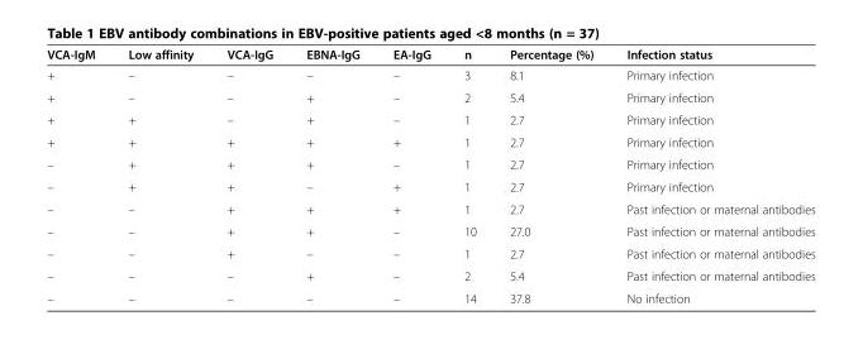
<table><thead><tr><td>VCA-IgM</td><td>Low affinity</td><td>VCA-IgG</td><td>EBNA-IgG</td><td>EA-IgG</td><td>n</td><td>Percentage (%)</td><td>Infection status</td></tr></thead><tbody><tr><td>+</td><td>–</td><td>–</td><td>–</td><td>–</td><td>3</td><td>8.1</td><td>Primary infection</td></tr><tr><td>+</td><td>–</td><td>–</td><td>+</td><td>–</td><td>2</td><td>5.4</td><td>Primary infection</td></tr><tr><td>+</td><td>+</td><td>–</td><td>+</td><td>–</td><td>1</td><td>2.7</td><td>Primary infection</td></tr><tr><td>+</td><td>+</td><td>+</td><td>+</td><td>+</td><td>1</td><td>2.7</td><td>Primary infection</td></tr><tr><td>–</td><td>+</td><td>+</td><td>+</td><td>–</td><td>1</td><td>2.7</td><td>Primary infection</td></tr><tr><td>–</td><td>+</td><td>+</td><td>–</td><td>+</td><td>1</td><td>2.7</td><td>Primary infection</td></tr><tr><td>–</td><td>–</td><td>+</td><td>+</td><td>+</td><td>1</td><td>2.7</td><td>Past infection or maternal antibodies</td></tr><tr><td>–</td><td>–</td><td>+</td><td>+</td><td>–</td><td>10</td><td>27.0</td><td>Past infection or maternal antibodies</td></tr><tr><td>–</td><td>–</td><td>+</td><td>–</td><td>–</td><td>1</td><td>2.7</td><td>Past infection or maternal antibodies</td></tr><tr><td>–</td><td>–</td><td>–</td><td>+</td><td>–</td><td>2</td><td>5.4</td><td>Past infection or maternal antibodies</td></tr><tr><td>–</td><td>–</td><td>–</td><td>–</td><td>–</td><td>14</td><td>37.8</td><td>No infection</td></tr></tbody></table>